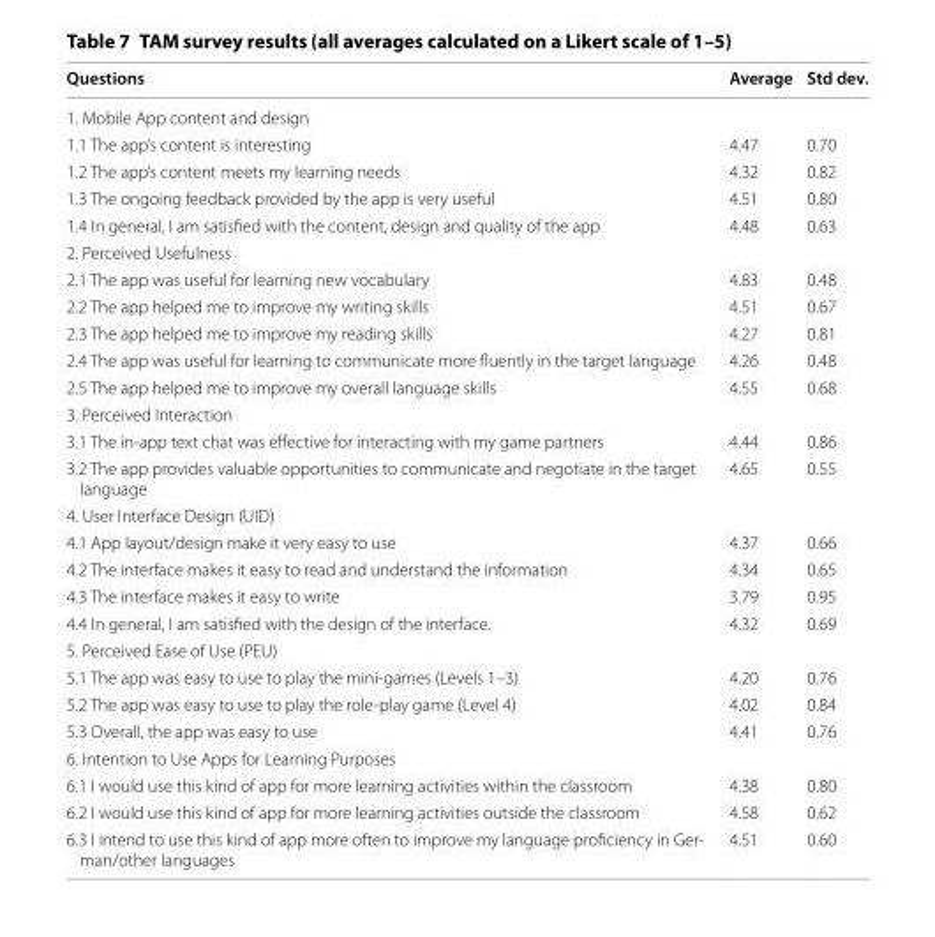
<table><thead><tr><td>Questions</td><td>Average</td><td>Std dev.</td></tr></thead><tbody><tr><td colspan="3">1. Mobile App content and design</td></tr><tr><td>1.1 The app’s content is interesting</td><td>4.47</td><td>0.70</td></tr><tr><td>1.2 The app’s content meets my learning needs</td><td>4.32</td><td>0.82</td></tr><tr><td>1.3 The ongoing feedback provided by the app is very useful</td><td>4.51</td><td>0.80</td></tr><tr><td>1.4 In general, I am satisfied with the content, design and quality of the app</td><td>4.48</td><td>0.63</td></tr><tr><td colspan="3">2. Perceived Usefulness</td></tr><tr><td>2.1 The app was useful for learning new vocabulary</td><td>4.83</td><td>0.48</td></tr><tr><td>2.2 The app helped me to improve my writing skills</td><td>4.51</td><td>0.67</td></tr><tr><td>2.3 The app helped me to improve my reading skills</td><td>4.27</td><td>0.81</td></tr><tr><td>2.4 The app was useful for learning to communicate more fluently in the target language</td><td>4.26</td><td>0.48</td></tr><tr><td>2.5 The app helped me to improve my overall language skills</td><td>4.55</td><td>0.68</td></tr><tr><td colspan="3">3. Perceived Interaction</td></tr><tr><td>3.1 The in‑app text chat was effective for interacting with my game partners</td><td>4.44</td><td>0.86</td></tr><tr><td>3.2 The app provides valuable opportunities to communicate and negotiate in the target language</td><td>4.65</td><td>0.55</td></tr><tr><td colspan="3">4. User Interface Design (UID)</td></tr><tr><td>4.1 App layout/design make it very easy to use</td><td>4.37</td><td>0.66</td></tr><tr><td>4.2 The interface makes it easy to read and understand the information</td><td>4.34</td><td>0.65</td></tr><tr><td>4.3 The interface makes it easy to write</td><td>3.79</td><td>0.95</td></tr><tr><td>4.4 In general, I am satisfied with the design of the interface.</td><td>4.32</td><td>0.69</td></tr><tr><td colspan="3">5. Perceived Ease of Use (PEU)</td></tr><tr><td>5.1 The app was easy to use to play the mini‑games (Levels 1–3)</td><td>4.20</td><td>0.76</td></tr><tr><td>5.2 The app was easy to use to play the role‑play game (Level 4)</td><td>4.02</td><td>0.84</td></tr><tr><td>5.3 Overall, the app was easy to use</td><td>4.41</td><td>0.76</td></tr><tr><td colspan="3">6. Intention to Use Apps for Learning Purposes</td></tr><tr><td>6.1 I would use this kind of app for more learning activities within the classroom</td><td>4.38</td><td>0.80</td></tr><tr><td>6.2 I would use this kind of app for more learning activities outside the classroom</td><td>4.58</td><td>0.62</td></tr><tr><td>6.3 I intend to use this kind of app more often to improve my language proficiency in Ger‑ man/other languages</td><td>4.51</td><td>0.60</td></tr></tbody></table>